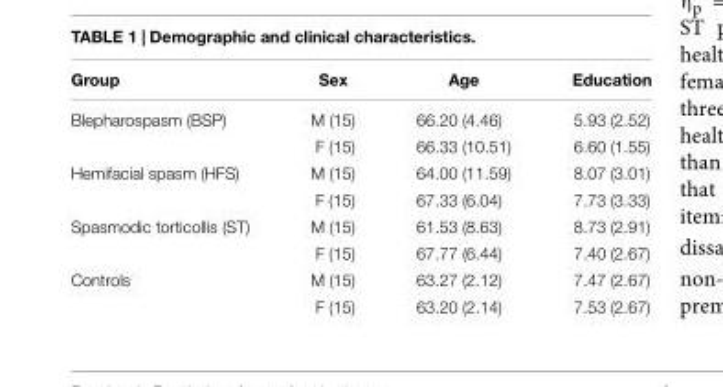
<table><thead><tr><td>Group</td><td>Sex</td><td>Age</td><td>Education</td></tr></thead><tbody><tr><td rowspan="2">Blepharospasm (BSP)</td><td>M (15)</td><td>66.20 (4.46)</td><td>5.93 (2.52)</td></tr><tr><td>F (15)</td><td>66.33 (10.51)</td><td>6.60 (1.55)</td></tr><tr><td rowspan="2">Hemifacial spasm (HFS)</td><td>M (15)</td><td>64.00 (11.59)</td><td>8.07 (3.01)</td></tr><tr><td>F (15)</td><td>67.33 (6.04)</td><td>7.73 (3.33)</td></tr><tr><td rowspan="2">Spasmodic torticollis (ST)</td><td>M (15)</td><td>61.53 (8.63)</td><td>8.73 (2.91)</td></tr><tr><td>F (15)</td><td>67.77 (6.44)</td><td>7.40 (2.67)</td></tr><tr><td rowspan="2">Controls</td><td>M (15)</td><td>63.27 (2.12)</td><td>7.47 (2.67)</td></tr><tr><td>F (15)</td><td>63.20 (2.14)</td><td>7.53 (2.67)</td></tr></tbody></table>